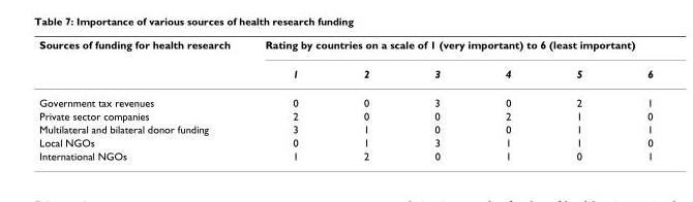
<table><thead><tr><td rowspan="2">Sources of funding for health research</td><td colspan="6">Rating by countries on a scale of 1 (very important) to 6 (least important)</td></tr><tr><td>1</td><td>2</td><td>3</td><td>4</td><td>5</td><td>6</td></tr></thead><tbody><tr><td>Government tax revenues</td><td>0</td><td>0</td><td>3</td><td>0</td><td>2</td><td>1</td></tr><tr><td>Private sector companies</td><td>2</td><td>0</td><td>0</td><td>2</td><td>1</td><td>0</td></tr><tr><td>Multilateral and bilateral donor funding</td><td>3</td><td>1</td><td>0</td><td>0</td><td>1</td><td>1</td></tr><tr><td>Local NGOs</td><td>0</td><td>1</td><td>3</td><td>1</td><td>1</td><td>0</td></tr><tr><td>International NGOs</td><td>1</td><td>2</td><td>0</td><td>1</td><td>0</td><td>1</td></tr></tbody></table>